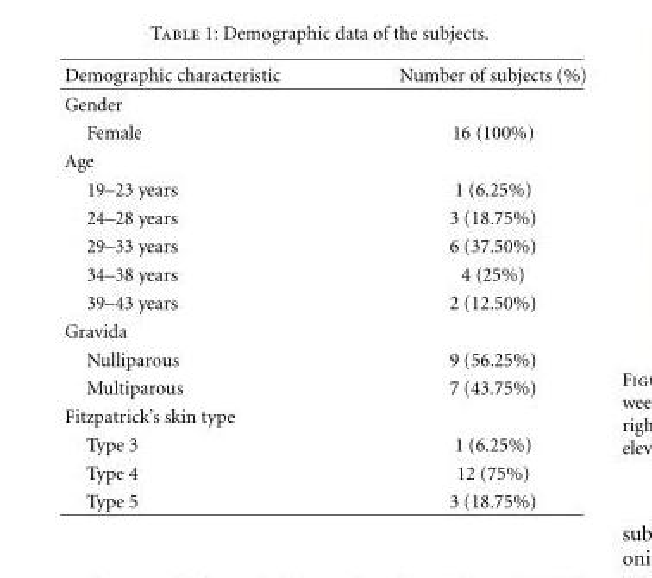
<table><thead><tr><td>Demographic characteristic</td><td>Number of subjects (%)</td></tr></thead><tbody><tr><td colspan="2">Gender</td></tr><tr><td>Female</td><td>16 (100%)</td></tr><tr><td colspan="2">Age</td></tr><tr><td>19–23 years</td><td>1 (6.25%)</td></tr><tr><td>24–28 years</td><td>3 (18.75%)</td></tr><tr><td>29–33 years</td><td>6 (37.50%)</td></tr><tr><td>34–38 years</td><td>4 (25%)</td></tr><tr><td>39–43 years</td><td>2 (12.50%)</td></tr><tr><td colspan="2">Gravida</td></tr><tr><td>Nulliparous</td><td>9 (56.25%)</td></tr><tr><td>Multiparous</td><td>7 (43.75%)</td></tr><tr><td colspan="2">Fitzpatrick’s skin type</td></tr><tr><td>Type 3</td><td>1 (6.25%)</td></tr><tr><td>Type 4</td><td>12 (75%)</td></tr><tr><td>Type 5</td><td>3 (18.75%)</td></tr></tbody></table>